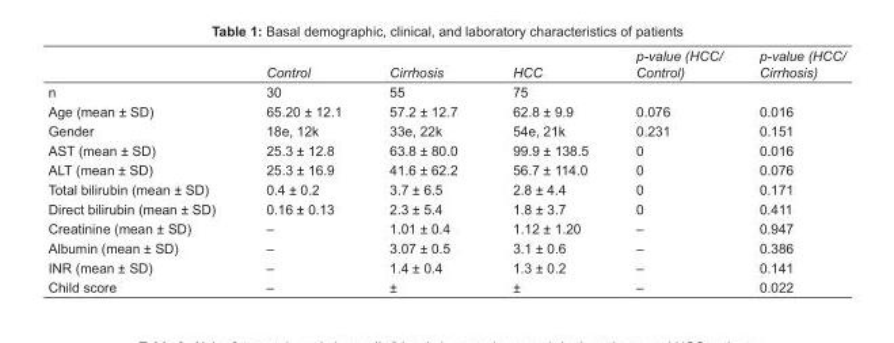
<table><thead><tr><td></td><td>Control</td><td>Cirrhosis</td><td>HCC</td><td>p-value (HCC/ Control)</td><td>p-value (HCC/ Cirrhosis)</td></tr></thead><tbody><tr><td>n</td><td>30</td><td>55</td><td>75</td><td></td><td></td></tr><tr><td>Age (mean ± SD)</td><td>65.20 ± 12.1</td><td>57.2 ± 12.7</td><td>62.8 ± 9.9</td><td>0.076</td><td>0.016</td></tr><tr><td>Gender</td><td>18e, 12k</td><td>33e, 22k</td><td>54e, 21k</td><td>0.231</td><td>0.151</td></tr><tr><td>AST (mean ± SD)</td><td>25.3 ± 12.8</td><td>63.8 ± 80.0</td><td>99.9 ± 138.5</td><td>0</td><td>0.016</td></tr><tr><td>ALT (mean ± SD)</td><td>25.3 ± 16.9</td><td>41.6 ± 62.2</td><td>56.7 ± 114.0</td><td>0</td><td>0.076</td></tr><tr><td>Total bilirubin (mean ± SD)</td><td>0.4 ± 0.2</td><td>3.7 ± 6.5</td><td>2.8 ± 4.4</td><td>0</td><td>0.171</td></tr><tr><td>Direct bilirubin (mean ± SD)</td><td>0.16 ± 0.13</td><td>2.3 ± 5.4</td><td>1.8 ± 3.7</td><td>0</td><td>0.411</td></tr><tr><td>Creatinine (mean ± SD)</td><td>–</td><td>1.01 ± 0.4</td><td>1.12 ± 1.20</td><td>–</td><td>0.947</td></tr><tr><td>Albumin (mean ± SD)</td><td>–</td><td>3.07 ± 0.5</td><td>3.1 ± 0.6</td><td>–</td><td>0.386</td></tr><tr><td>INR (mean ± SD)</td><td>–</td><td>1.4 ± 0.4</td><td>1.3 ± 0.2</td><td>–</td><td>0.141</td></tr><tr><td>Child score</td><td>–</td><td>±</td><td>±</td><td>–</td><td>0.022</td></tr></tbody></table>